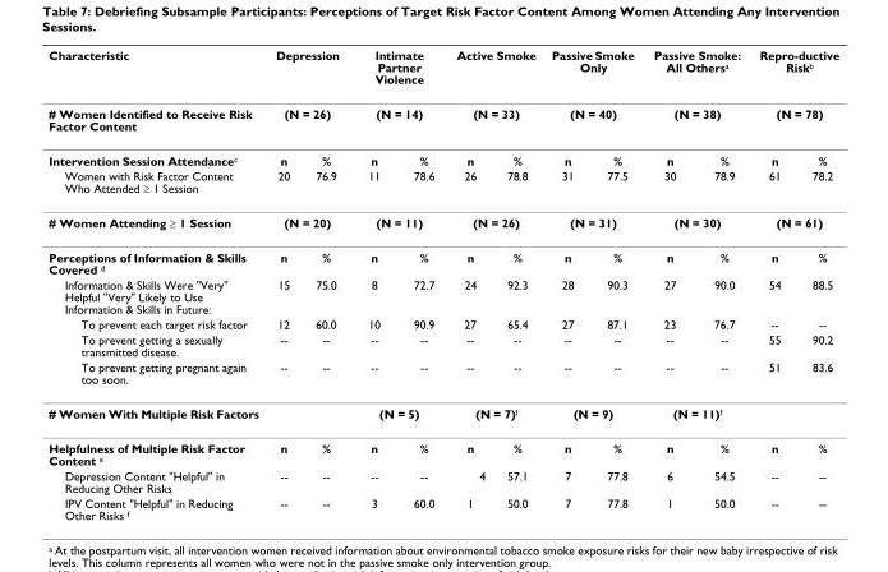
<table><thead><tr><td rowspan="3">Characteristic # Women Identified to Receive Risk Factor Content Intervention Session Attendancec</td><td rowspan="2" colspan="2">Depression (N = 26)</td><td rowspan="2" colspan="2">Intimate Partner Violence (N = 14)</td><td rowspan="2" colspan="2">Active Smoke (N = 33)</td><td rowspan="2" colspan="2">Passive Smoke Only (N = 40)</td><td rowspan="2" colspan="2">Passive Smoke: All Othersa (N = 38)</td><td rowspan="2" colspan="2">Repro-ductive Riskb (N = 78)</td></tr><tr></tr><tr><td>n</td><td>%</td><td>n</td><td>%</td><td>n</td><td>%</td><td>n</td><td>%</td><td>n</td><td>%</td><td>n</td><td>%</td></tr></thead><tbody><tr><td>Women with Risk Factor Content Who Attended ≥ 1 Session</td><td>20</td><td>76.9</td><td>11</td><td>78.6</td><td>26</td><td>78.8</td><td>31</td><td>77.5</td><td>30</td><td>78.9</td><td>61</td><td>78.2</td></tr><tr><td># Women Attending ≥ 1 Session</td><td colspan="2">(N = 20)</td><td colspan="2">(N = 11)</td><td colspan="2">(N = 26)</td><td colspan="2">(N = 31)</td><td colspan="2">(N = 30)</td><td colspan="2">(N = 61)</td></tr><tr><td>Perceptions of Information &amp; Skills Covered <sup>d</sup></td><td>n</td><td>%</td><td>n</td><td>%</td><td>n</td><td>%</td><td>n</td><td>%</td><td>n</td><td>%</td><td>n</td><td>%</td></tr><tr><td>Information &amp; Skills Were &quot;Very&quot; Helpful &quot;Very&quot; Likely to Use Information &amp; Skills in Future:</td><td>15</td><td>75.0</td><td>8</td><td>72.7</td><td>24</td><td>92.3</td><td>28</td><td>90.3</td><td>27</td><td>90.0</td><td>54</td><td>88.5</td></tr><tr><td>To prevent each target risk factor</td><td>12</td><td>60.0</td><td>10</td><td>90.9</td><td>27</td><td>65.4</td><td>27</td><td>87.1</td><td>23</td><td>76.7</td><td>--</td><td>--</td></tr><tr><td>To prevent getting a sexually transmitted disease.</td><td>--</td><td>--</td><td>--</td><td>--</td><td>--</td><td>--</td><td>--</td><td>--</td><td>--</td><td>--</td><td>55</td><td>90.2</td></tr><tr><td>To prevent getting pregnant again too soon.</td><td>--</td><td>--</td><td>--</td><td>--</td><td>--</td><td>--</td><td>--</td><td>--</td><td>--</td><td>--</td><td>51</td><td>83.6</td></tr><tr><td># Women With Multiple Risk Factors</td><td colspan="2"></td><td colspan="2">(N = 5)</td><td colspan="2">(N = 7)<sup>f</sup></td><td colspan="2">(N = 9)</td><td colspan="2">(N = 11)<sup>f</sup></td><td colspan="2"></td></tr><tr><td>Helpfulness of Multiple Risk Factor Content <sup>e</sup></td><td>n</td><td>%</td><td>n</td><td>%</td><td>n</td><td>%</td><td>n</td><td>%</td><td>n</td><td>%</td><td>n</td><td>%</td></tr><tr><td>Depression Content &quot;Helpful&quot; in Reducing Other Risks</td><td>--</td><td>--</td><td>--</td><td>--</td><td>4</td><td>57.1</td><td>7</td><td>77.8</td><td>6</td><td>54.5</td><td>--</td><td>--</td></tr><tr><td>IPV Content &quot;Helpful&quot; in Reducing Other Risks <sup>f</sup></td><td>--</td><td>--</td><td>3</td><td>60.0</td><td>1</td><td>50.0</td><td>7</td><td>77.8</td><td>1</td><td>50.0</td><td>--</td><td>--</td></tr></tbody></table>